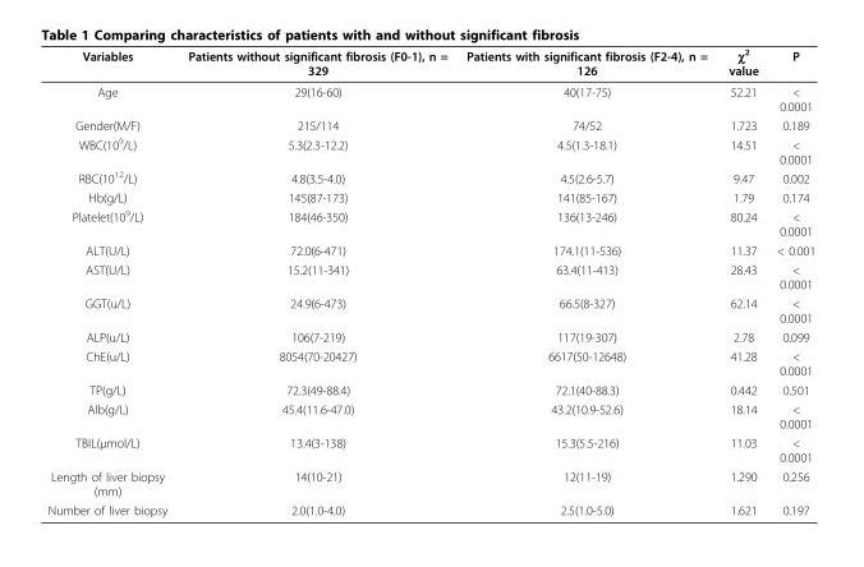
<table><thead><tr><td>Variables</td><td>Patients without significant fibrosis (F0-1), n = 329</td><td>Patients with significant fibrosis (F2-4), n = 126</td><td>χ<sup>2</sup> value</td><td>P</td></tr></thead><tbody><tr><td>Age</td><td>29(16-60)</td><td>40(17-75)</td><td>52.21</td><td>&lt; 0.0001</td></tr><tr><td>Gender(M/F)</td><td>215/114</td><td>74/52</td><td>1.723</td><td>0.189</td></tr><tr><td>WBC(10<sup>9</sup>/L)</td><td>5.3(2.3-12.2)</td><td>4.5(1.3-18.1)</td><td>14.51</td><td>&lt; 0.0001</td></tr><tr><td>RBC(10<sup>12</sup>/L)</td><td>4.8(3.5-4.0)</td><td>4.5(2.6-5.7)</td><td>9.47</td><td>0.002</td></tr><tr><td>Hb(g/L)</td><td>145(87-173)</td><td>141(85-167)</td><td>1.79</td><td>0.174</td></tr><tr><td>Platelet(10<sup>9</sup>/L)</td><td>184(46-350)</td><td>136(13-246)</td><td>80.24</td><td>&lt; 0.0001</td></tr><tr><td>ALT(U/L)</td><td>72.0(6-471)</td><td>174.1(11-536)</td><td>11.37</td><td>&lt; 0.001</td></tr><tr><td>AST(U/L)</td><td>15.2(11-341)</td><td>63.4(11-413)</td><td>28.43</td><td>&lt; 0.0001</td></tr><tr><td>GGT(u/L)</td><td>24.9(6-473)</td><td>66.5(8-327)</td><td>62.14</td><td>&lt; 0.0001</td></tr><tr><td>ALP(u/L)</td><td>106(7-219)</td><td>117(19-307)</td><td>2.78</td><td>0.099</td></tr><tr><td>ChE(u/L)</td><td>8054(70-20427)</td><td>6617(50-12648)</td><td>41.28</td><td>&lt; 0.0001</td></tr><tr><td>TP(g/L)</td><td>72.3(49-88.4)</td><td>72.1(40-88.3)</td><td>0.442</td><td>0.501</td></tr><tr><td>Alb(g/L)</td><td>45.4(11.6-47.0)</td><td>43.2(10.9-52.6)</td><td>18.14</td><td>&lt; 0.0001</td></tr><tr><td>TBIL(μmol/L)</td><td>13.4(3-138)</td><td>15.3(5.5-216)</td><td>11.03</td><td>&lt; 0.0001</td></tr><tr><td>Length of liver biopsy (mm)</td><td>14(10-21)</td><td>12(11-19)</td><td>1.290</td><td>0.256</td></tr><tr><td>Number of liver biopsy</td><td>2.0(1.0-4.0)</td><td>2.5(1.0-5.0)</td><td>1.621</td><td>0.197</td></tr></tbody></table>